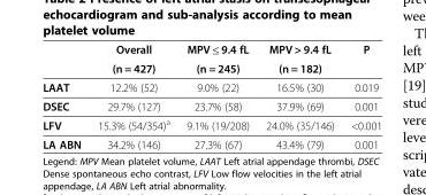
<table><thead><tr><td rowspan="2"></td><td rowspan="2">Overall (n = 427)</td><td rowspan="2">MPV ≤ 9.4 fL (n = 245)</td><td rowspan="2">MPV &gt; 9.4 fL (n = 182)</td><td rowspan="2">P</td></tr><tr></tr></thead><tbody><tr><td>LAAT</td><td>12.2% (52)</td><td>9.0% (22)</td><td>16.5% (30)</td><td>0.019</td></tr><tr><td>DSEC</td><td>29.7% (127)</td><td>23.7% (58)</td><td>37.9% (69)</td><td>0.001</td></tr><tr><td>LFV</td><td>15.3% (54/354)<sup>a</sup></td><td>9.1% (19/208)</td><td>24.0% (35/146)</td><td>&lt;0.001</td></tr><tr><td>LA ABN</td><td>34.2% (146)</td><td>27.3% (67)</td><td>43.4% (79)</td><td>0.001</td></tr></tbody></table>